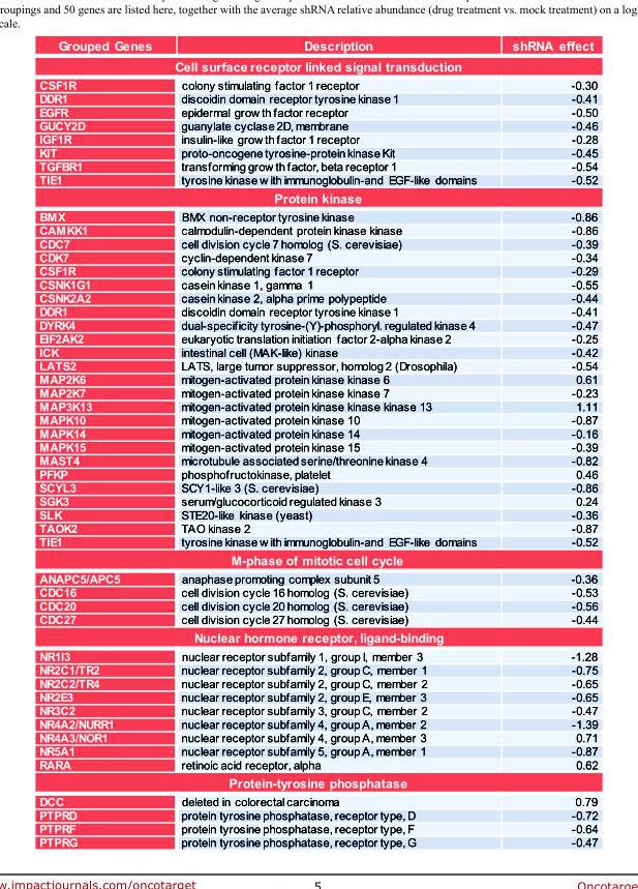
<table><thead><tr><td>Grouped Genes</td><td>Description</td><td>shRNA effect</td></tr><tr><td colspan="3">Cell surface receptor linked signal transduction</td></tr></thead><tbody><tr><td>CSF1R</td><td>colony stimulating factor 1 receptor</td><td>-0.30</td></tr><tr><td>DDR1</td><td>discoidin domain receptor tyrosine kinase 1</td><td>-0.41</td></tr><tr><td>EGFR</td><td>epidermal grow th factor receptor</td><td>-0.50</td></tr><tr><td>GUCY2D</td><td>guanylate cyclase 2D, membrane</td><td>-0.46</td></tr><tr><td>IGF1R</td><td>insulin-like grow th factor 1 receptor</td><td>-0.28</td></tr><tr><td>KIT</td><td>proto-oncogene tyrosine-protein kinase Kit</td><td>-0.45</td></tr><tr><td>TGFBR1</td><td>transforming grow th factor, beta receptor 1</td><td>-0.54</td></tr><tr><td>TIE1</td><td>tyrosine kinase w ith immunoglobulin-and EGF-like domains</td><td>-0.52</td></tr><tr><td colspan="3">Protein kinase</td></tr><tr><td>BMX</td><td>BMX non-receptor tyrosine kinase</td><td>-0.86</td></tr><tr><td>CAMKK1</td><td>calmodulin-dependent protein kinase kinase</td><td>-0.86</td></tr><tr><td>CDC7</td><td>cell division cycle 7 homolog (S. cerevisiae)</td><td>-0.39</td></tr><tr><td>CDK7</td><td>cyclin-dependent kinase 7</td><td>-0.34</td></tr><tr><td>CSF1R</td><td>colony stimulating factor 1 receptor</td><td>-0.29</td></tr><tr><td>CSNK1G1</td><td>casein kinase 1, gamma 1</td><td>-0.55</td></tr><tr><td>CSNK2A2</td><td>casein kinase 2, alpha prime polypeptide</td><td>-0.44</td></tr><tr><td>DDR1</td><td>discoidin domain receptor tyrosine kinase 1</td><td>-0.41</td></tr><tr><td>DYRK4</td><td>dual-specificity tyrosine-(Y)-phosphoryl. regulated kinase 4</td><td>-0.47</td></tr><tr><td>EIF2AK2</td><td>eukaryotic translation initiation factor 2-alpha kinase 2</td><td>-0.25</td></tr><tr><td>ICK</td><td>intestinal cell (MAK-like) kinase</td><td>-0.42</td></tr><tr><td>LATS2</td><td>LATS, large tumor suppressor, homolog 2 (Drosophila)</td><td>-0.54</td></tr><tr><td>MAP2K6</td><td>mitogen-activated protein kinase kinase 6</td><td>0.61</td></tr><tr><td>MAP2K7</td><td>mitogen-activated protein kinase kinase 7</td><td>-0.23</td></tr><tr><td>MAP3K13</td><td>mitogen-activated protein kinase kinase kinase 13</td><td>1.11</td></tr><tr><td>MAPK10</td><td>mitogen-activated protein kinase 10</td><td>-0.87</td></tr><tr><td>MAPK14</td><td>mitogen-activated protein kinase 14</td><td>-0.16</td></tr><tr><td>MAPK15</td><td>mitogen-activated protein kinase 15</td><td>-0.39</td></tr><tr><td>MAST4</td><td>microtubule associated serine/threonine kinase 4</td><td>-0.82</td></tr><tr><td>PFKP</td><td>phosphofructokinase, platelet</td><td>0.46</td></tr><tr><td>SCYL3</td><td>SCY1-like 3 (S. cerevisiae)</td><td>-0.86</td></tr><tr><td>SGK3</td><td>serum/glucocorticoid regulated kinase 3</td><td>0.24</td></tr><tr><td>SLK</td><td>STE20-like kinase (yeast)</td><td>-0.36</td></tr><tr><td>TAOK2</td><td>TAO kinase 2</td><td>-0.87</td></tr><tr><td>TIE1</td><td>tyrosine kinase w ith immunoglobulin-and EGF-like domains</td><td>-0.52</td></tr><tr><td colspan="3">M-phase of mitotic cell cycle</td></tr><tr><td>ANAPC5/APC5</td><td>anaphase promoting complex subunit 5</td><td>-0.36</td></tr><tr><td>CDC16</td><td>cell division cycle 16 homolog (S. cerevisiae)</td><td>-0.53</td></tr><tr><td>CDC20</td><td>cell division cycle 20 homolog (S. cerevisiae)</td><td>-0.56</td></tr><tr><td>CDC27</td><td>cell division cycle 27 homolog (S. cerevisiae)</td><td>-0.44</td></tr><tr><td colspan="3">Nuclear hormone receptor, ligand-binding</td></tr><tr><td>NR1I3</td><td>nuclear receptor subfamily 1, group I, member 3</td><td>-1.28</td></tr><tr><td>NR2C1/TR2</td><td>nuclear receptor subfamily 2, group C, member 1</td><td>-0.75</td></tr><tr><td>NR2C2/TR4</td><td>nuclear receptor subfamily 2, group C, member 2</td><td>-0.65</td></tr><tr><td>NR2E3</td><td>nuclear receptor subfamily 2, group E, member 3</td><td>-0.65</td></tr><tr><td>NR3C2</td><td>nuclear receptor subfamily 3, group C, member 2</td><td>-0.47</td></tr><tr><td>NR4A2/NURR1</td><td>nuclear receptor subfamily 4, group A, member 2</td><td>-1.39</td></tr><tr><td>NR4A3/NOR1</td><td>nuclear receptor subfamily 4, group A, member 3</td><td>0.71</td></tr><tr><td>NR5A1</td><td>nuclear receptor subfamily 5, group A, member 1</td><td>-0.87</td></tr><tr><td>RARA</td><td>retinoic acid receptor, alpha</td><td>0.62</td></tr><tr><td colspan="3">Protein-tyrosine phosphatase</td></tr><tr><td>DCC</td><td>deleted in colorectal carcinoma</td><td>0.79</td></tr><tr><td>PTPRD</td><td>protein tyrosine phosphatase, receptor type, D</td><td>-0.72</td></tr><tr><td>PTPRF</td><td>protein tyrosine phosphatase, receptor type, F</td><td>-0.64</td></tr><tr><td>PTPRG</td><td>protein tyrosine phosphatase, receptor type, G</td><td>-0.47</td></tr></tbody></table>